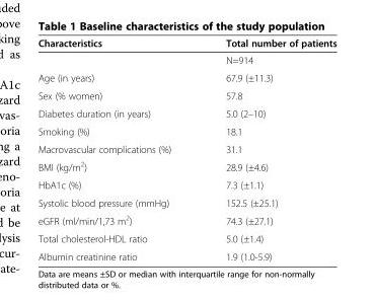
<table><thead><tr><td>Characteristics</td><td>Total number of patients</td></tr></thead><tbody><tr><td></td><td>N=914</td></tr><tr><td>Age (in years)</td><td>67.9 (±11.3)</td></tr><tr><td>Sex (% women)</td><td>57.8</td></tr><tr><td>Diabetes duration (in years)</td><td>5.0 (2–10)</td></tr><tr><td>Smoking (%)</td><td>18.1</td></tr><tr><td>Macrovascular complications (%)</td><td>31.1</td></tr><tr><td>BMI (kg/m<sup>2</sup>)</td><td>28.9 (±4.6)</td></tr><tr><td>HbA1c (%)</td><td>7.3 (±1.1)</td></tr><tr><td>Systolic blood pressure (mmHg)</td><td>152.5 (±25.1)</td></tr><tr><td>eGFR (ml/min/1,73 m<sup>2</sup>)</td><td>74.3 (±27.1)</td></tr><tr><td>Total cholesterol-HDL ratio</td><td>5.0 (±1.4)</td></tr><tr><td>Albumin creatinine ratio</td><td>1.9 (1.0-5.9)</td></tr></tbody></table>